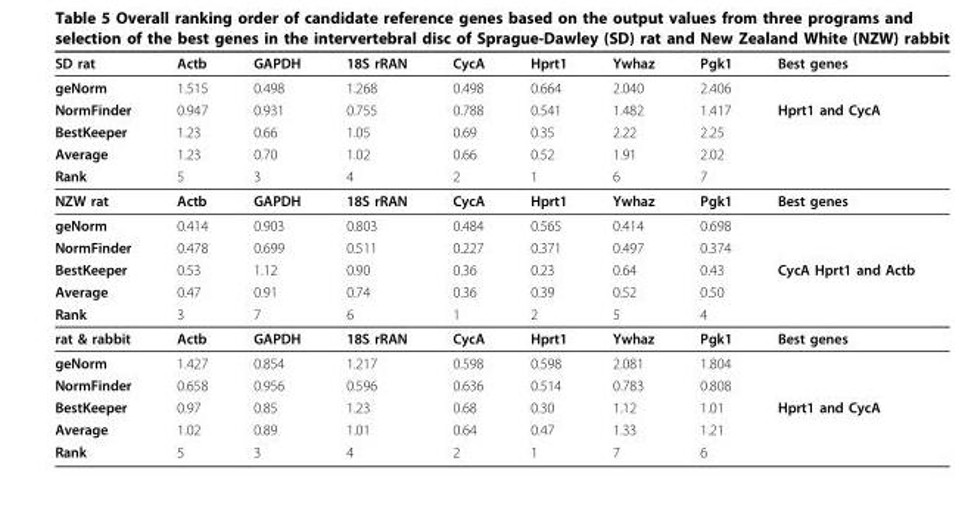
<table><thead><tr><td>SD rat</td><td>Actb</td><td>GAPDH</td><td>18S rRAN</td><td>CycA</td><td>Hprt1</td><td>Ywhaz</td><td>Pgk1</td><td>Best genes</td></tr></thead><tbody><tr><td>geNorm</td><td>1.515</td><td>0.498</td><td>1.268</td><td>0.498</td><td>0.664</td><td>2.040</td><td>2.406</td><td></td></tr><tr><td>NormFinder</td><td>0.947</td><td>0.931</td><td>0.755</td><td>0.788</td><td>0.541</td><td>1.482</td><td>1.417</td><td>Hprt1 and CycA</td></tr><tr><td>BestKeeper</td><td>1.23</td><td>0.66</td><td>1.05</td><td>0.69</td><td>0.35</td><td>2.22</td><td>2.25</td><td></td></tr><tr><td>Average</td><td>1.23</td><td>0.70</td><td>1.02</td><td>0.66</td><td>0.52</td><td>1.91</td><td>2.02</td><td></td></tr><tr><td>Rank</td><td>5</td><td>3</td><td>4</td><td>2</td><td>1</td><td>6</td><td>7</td><td></td></tr><tr><td>NZW rat</td><td>Actb</td><td>GAPDH</td><td>18S rRAN</td><td>CycA</td><td>Hprt1</td><td>Ywhaz</td><td>Pgk1</td><td>Best genes</td></tr><tr><td>geNorm</td><td>0.414</td><td>0.903</td><td>0.803</td><td>0.484</td><td>0.565</td><td>0.414</td><td>0.698</td><td></td></tr><tr><td>NormFinder</td><td>0.478</td><td>0.699</td><td>0.511</td><td>0.227</td><td>0.371</td><td>0.497</td><td>0.374</td><td></td></tr><tr><td>BestKeeper</td><td>0.53</td><td>1.12</td><td>0.90</td><td>0.36</td><td>0.23</td><td>0.64</td><td>0.43</td><td>CycA Hprt1 and Actb</td></tr><tr><td>Average</td><td>0.47</td><td>0.91</td><td>0.74</td><td>0.36</td><td>0.39</td><td>0.52</td><td>0.50</td><td></td></tr><tr><td>Rank</td><td>3</td><td>7</td><td>6</td><td>1</td><td>2</td><td>5</td><td>4</td><td></td></tr><tr><td>rat &amp; rabbit</td><td>Actb</td><td>GAPDH</td><td>18S rRAN</td><td>CycA</td><td>Hprt1</td><td>Ywhaz</td><td>Pgk1</td><td>Best genes</td></tr><tr><td>geNorm</td><td>1.427</td><td>0.854</td><td>1.217</td><td>0.598</td><td>0.598</td><td>2.081</td><td>1.804</td><td></td></tr><tr><td>NormFinder</td><td>0.658</td><td>0.956</td><td>0.596</td><td>0.636</td><td>0.514</td><td>0.783</td><td>0.808</td><td></td></tr><tr><td>BestKeeper</td><td>0.97</td><td>0.85</td><td>1.23</td><td>0.68</td><td>0.30</td><td>1.12</td><td>1.01</td><td>Hprt1 and CycA</td></tr><tr><td>Average</td><td>1.02</td><td>0.89</td><td>1.01</td><td>0.64</td><td>0.47</td><td>1.33</td><td>1.21</td><td></td></tr><tr><td>Rank</td><td>5</td><td>3</td><td>4</td><td>2</td><td>1</td><td>7</td><td>6</td><td></td></tr></tbody></table>